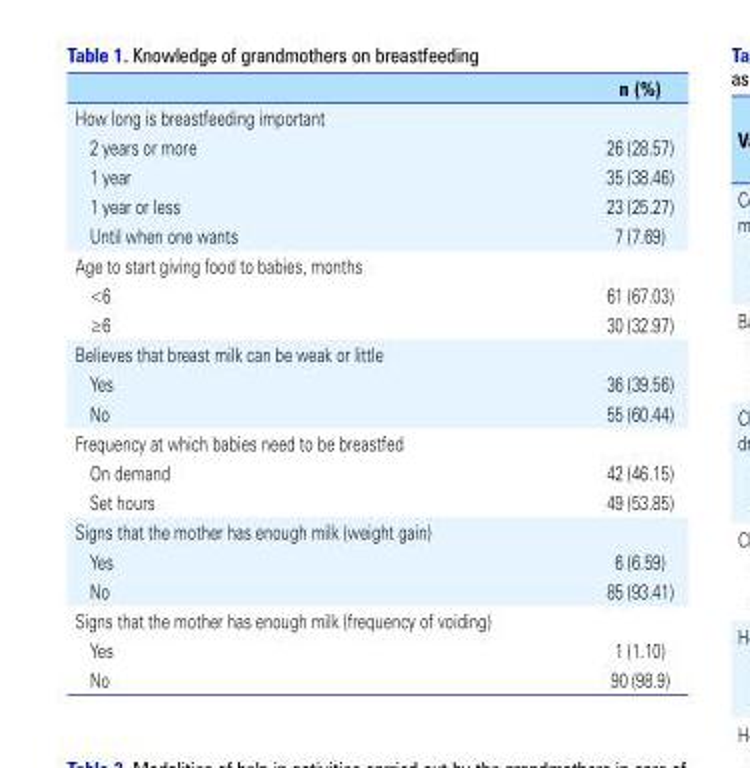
<table><thead><tr><td></td><td>n (%)</td></tr></thead><tbody><tr><td colspan="2">How long is breastfeeding important</td></tr><tr><td>2 years or more</td><td>26 (28.57)</td></tr><tr><td>1 year</td><td>35 (38.46)</td></tr><tr><td>1 year or less</td><td>23 (25.27)</td></tr><tr><td>Until when one wants</td><td>7 (7.69)</td></tr><tr><td colspan="2">Age to start giving food to babies, months</td></tr><tr><td>&lt;6</td><td>61 (67.03)</td></tr><tr><td>≥6</td><td>30 (32.97)</td></tr><tr><td colspan="2">Believes that breast milk can be weak or little</td></tr><tr><td>Yes</td><td>36 (39.56)</td></tr><tr><td>No</td><td>55 (60.44)</td></tr><tr><td colspan="2">Frequency at which babies need to be breastfed</td></tr><tr><td>On demand</td><td>42 (46.15)</td></tr><tr><td>Set hours</td><td>49 (53.85)</td></tr><tr><td colspan="2">Signs that the mother has enough milk (weight gain)</td></tr><tr><td>Yes</td><td>6 (6.59)</td></tr><tr><td>No</td><td>85 (93.41)</td></tr><tr><td colspan="2">Signs that the mother has enough milk (frequency of voiding)</td></tr><tr><td>Yes</td><td>1 (1.10)</td></tr><tr><td>No</td><td>90 (98.9)</td></tr></tbody></table>